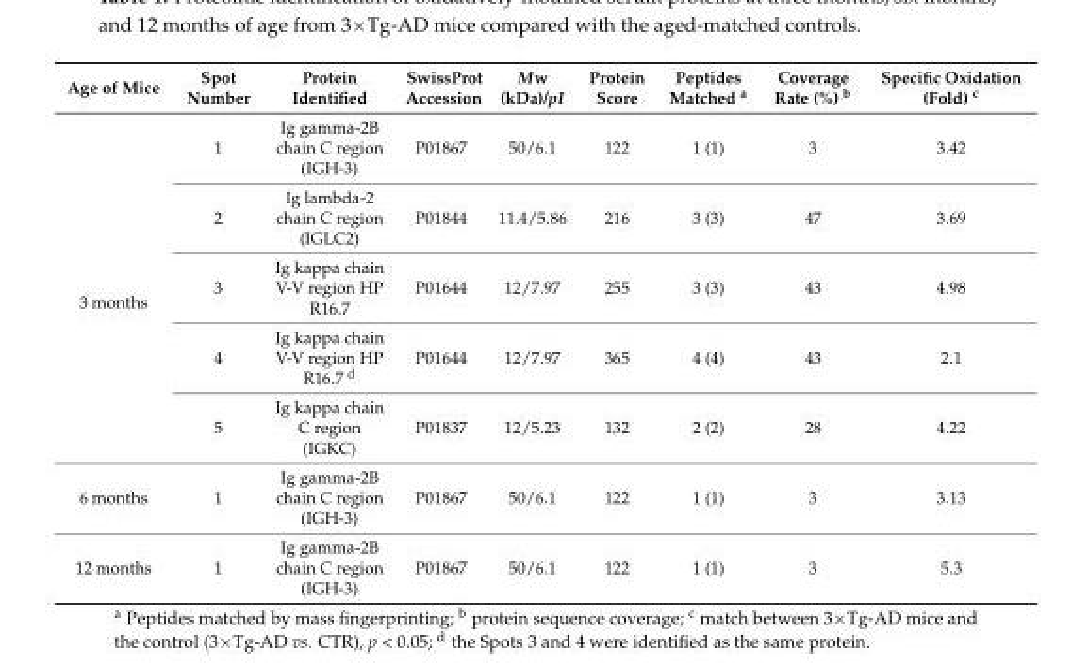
<table><thead><tr><td>Age of Mice</td><td>Spot Number</td><td>Protein Identified</td><td>SwissProt Accession</td><td>Mw (kDa)/pI</td><td>Protein Score</td><td>Peptides Matched <sup>a</sup></td><td>Coverage Rate (%) <sup>b</sup></td><td>Specific Oxidation (Fold) <sup>c</sup></td></tr></thead><tbody><tr><td rowspan="5">3 months</td><td>1</td><td>Ig gamma-2B chain C region (IGH-3)</td><td>P01867</td><td>50/6.1</td><td>122</td><td>1 (1)</td><td>3</td><td>3.42</td></tr><tr><td>2</td><td>Ig lambda-2 chain C region (IGLC2)</td><td>P01844</td><td>11.4/5.86</td><td>216</td><td>3 (3)</td><td>47</td><td>3.69</td></tr><tr><td>3</td><td>Ig kappa chain V-V region HP R16.7</td><td>P01644</td><td>12/7.97</td><td>255</td><td>3 (3)</td><td>43</td><td>4.98</td></tr><tr><td>4</td><td>Ig kappa chain V-V region HP R16.7 <sup>d</sup></td><td>P01644</td><td>12/7.97</td><td>365</td><td>4 (4)</td><td>43</td><td>2.1</td></tr><tr><td>5</td><td>Ig kappa chain C region (IGKC)</td><td>P01837</td><td>12/5.23</td><td>132</td><td>2 (2)</td><td>28</td><td>4.22</td></tr><tr><td>6 months</td><td>1</td><td>Ig gamma-2B chain C region (IGH-3)</td><td>P01867</td><td>50/6.1</td><td>122</td><td>1 (1)</td><td>3</td><td>3.13</td></tr><tr><td>12 months</td><td>1</td><td>Ig gamma-2B chain C region (IGH-3)</td><td>P01867</td><td>50/6.1</td><td>122</td><td>1 (1)</td><td>3</td><td>5.3</td></tr></tbody></table>